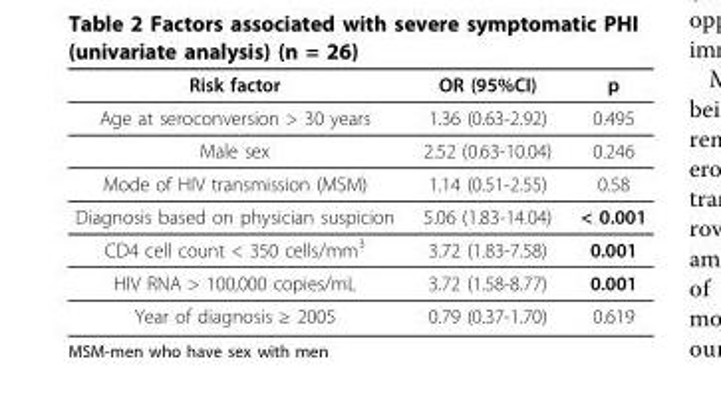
<table><thead><tr><td>Risk factor</td><td>OR (95%CI)</td><td>p</td></tr></thead><tbody><tr><td>Age at seroconversion &gt; 30 years</td><td>1.36 (0.63-2.92)</td><td>0.495</td></tr><tr><td>Male sex</td><td>2.52 (0.63-10.04)</td><td>0.246</td></tr><tr><td>Mode of HIV transmission (MSM)</td><td>1.14 (0.51-2.55)</td><td>0.58</td></tr><tr><td>Diagnosis based on physician suspicion</td><td>5.06 (1.83-14.04)</td><td>&lt; 0.001</td></tr><tr><td>CD4 cell count &lt; 350 cells/mm<sup>3</sup></td><td>3.72 (1.83-7.58)</td><td>0.001</td></tr><tr><td>HIV RNA &gt; 100,000 copies/mL</td><td>3.72 (1.58-8.77)</td><td>0.001</td></tr><tr><td>Year of diagnosis ≥ 2005</td><td>0.79 (0.37-1.70)</td><td>0.619</td></tr></tbody></table>